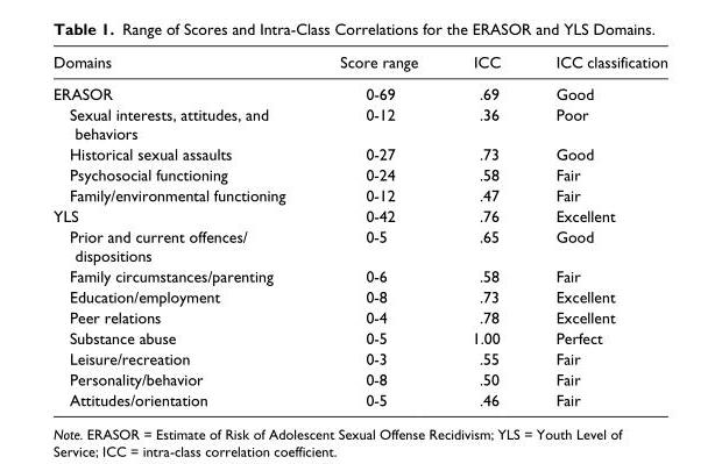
<table><thead><tr><td>Domains</td><td>Score range</td><td>ICC</td><td>ICC classification</td></tr></thead><tbody><tr><td>ERASOR</td><td>0-69</td><td>.69</td><td>Good</td></tr><tr><td>Sexual interests, attitudes, and behaviors</td><td>0-12</td><td>.36</td><td>Poor</td></tr><tr><td>Historical sexual assaults</td><td>0-27</td><td>.73</td><td>Good</td></tr><tr><td>Psychosocial functioning</td><td>0-24</td><td>.58</td><td>Fair</td></tr><tr><td>Family/environmental functioning</td><td>0-12</td><td>.47</td><td>Fair</td></tr><tr><td>YLS</td><td>0-42</td><td>.76</td><td>Excellent</td></tr><tr><td>Prior and current offences/ dispositions</td><td>0-5</td><td>.65</td><td>Good</td></tr><tr><td>Family circumstances/parenting</td><td>0-6</td><td>.58</td><td>Fair</td></tr><tr><td>Education/employment</td><td>0-8</td><td>.73</td><td>Excellent</td></tr><tr><td>Peer relations</td><td>0-4</td><td>.78</td><td>Excellent</td></tr><tr><td>Substance abuse</td><td>0-5</td><td>1.00</td><td>Perfect</td></tr><tr><td>Leisure/recreation</td><td>0-3</td><td>.55</td><td>Fair</td></tr><tr><td>Personality/behavior</td><td>0-8</td><td>.50</td><td>Fair</td></tr><tr><td>Attitudes/orientation</td><td>0-5</td><td>.46</td><td>Fair</td></tr></tbody></table>